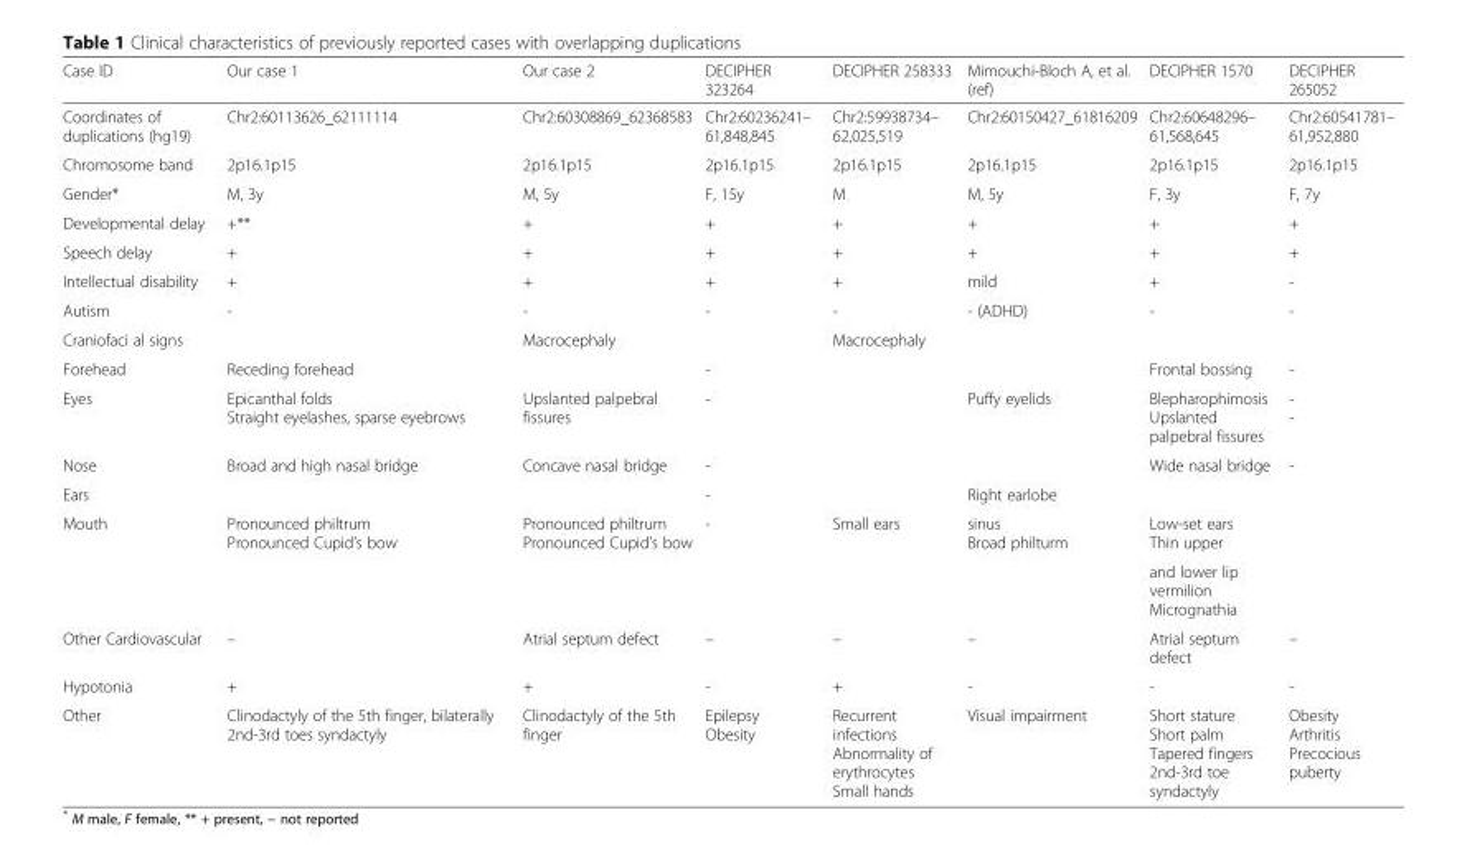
<table><thead><tr><td>Case ID</td><td>Our case 1</td><td>Our case 2</td><td>DECIPHER 323264</td><td>DECIPHER 258333</td><td>Mimouchi-Bloch A, et al. (ref)</td><td>DECIPHER 1570</td><td>DECIPHER 265052</td></tr></thead><tbody><tr><td>Coordinates of duplications (hg19)</td><td>Chr2:60113626_62111114</td><td>Chr2:60308869_62368583</td><td>Chr2:60236241– 61,848,845</td><td>Chr2:59938734– 62,025,519</td><td>Chr2:60150427_61816209</td><td>Chr2:60648296– 61,568,645</td><td>Chr2:60541781– 61,952,880</td></tr><tr><td>Chromosome band</td><td>2p16.1p15</td><td>2p16.1p15</td><td>2p16.1p15</td><td>2p16.1p15</td><td>2p16.1p15</td><td>2p16.1p15</td><td>2p16.1p15</td></tr><tr><td>Gender*</td><td>M, 3y</td><td>M, 5y</td><td>F, 15y</td><td>M</td><td>M, 5y</td><td>F, 3y</td><td>F, 7y</td></tr><tr><td>Developmental delay</td><td>+**</td><td>+</td><td>+</td><td>+</td><td>+</td><td>+</td><td>+</td></tr><tr><td>Speech delay</td><td>+</td><td>+</td><td>+</td><td>+</td><td>+</td><td>+</td><td>+</td></tr><tr><td>Intellectual disability</td><td>+</td><td>+</td><td>+</td><td>+</td><td>mild</td><td>+</td><td>-</td></tr><tr><td>Autism</td><td>-</td><td>-</td><td>-</td><td>-</td><td>- (ADHD)</td><td>-</td><td>-</td></tr><tr><td>Craniofaci al signs</td><td></td><td>Macrocephaly</td><td></td><td>Macrocephaly</td><td></td><td></td><td></td></tr><tr><td>Forehead</td><td>Receding forehead</td><td></td><td>-</td><td></td><td></td><td>Frontal bossing</td><td>-</td></tr><tr><td>Eyes</td><td>Epicanthal folds Straight eyelashes, sparse eyebrows</td><td>Upslanted palpebral fissures</td><td>-</td><td></td><td>Puffy eyelids</td><td>Blepharophimosis Upslanted palpebral fissures</td><td>- -</td></tr><tr><td>Nose</td><td>Broad and high nasal bridge</td><td>Concave nasal bridge</td><td>-</td><td></td><td></td><td>Wide nasal bridge</td><td>-</td></tr><tr><td>Ears</td><td></td><td></td><td>-</td><td></td><td>Right earlobe</td><td></td><td></td></tr><tr><td rowspan="2">Mouth</td><td rowspan="2">Pronounced philtrum Pronounced Cupid’s bow</td><td rowspan="2">Pronounced philtrum Pronounced Cupid’s bow</td><td rowspan="2">-</td><td>Small ears</td><td>sinus Broad philturm</td><td>Low-set ears Thin upper</td><td></td></tr><tr><td></td><td></td><td>and lower lip vermilion Micrognathia</td><td></td></tr><tr><td>Other Cardiovascular</td><td>–</td><td>Atrial septum defect</td><td>–</td><td>–</td><td>–</td><td>Atrial septum defect</td><td>–</td></tr><tr><td>Hypotonia</td><td>+</td><td>+</td><td>-</td><td>+</td><td>-</td><td>-</td><td>-</td></tr><tr><td>Other</td><td>Clinodactyly of the 5th finger, bilaterally 2nd-3rd toes syndactyly</td><td>Clinodactyly of the 5th finger</td><td>Epilepsy Obesity</td><td>Recurrent infections Abnormality of erythrocytes Small hands</td><td>Visual impairment</td><td>Short stature Short palm Tapered fingers 2nd-3rd toe syndactyly</td><td>Obesity Arthritis Precocious puberty</td></tr></tbody></table>